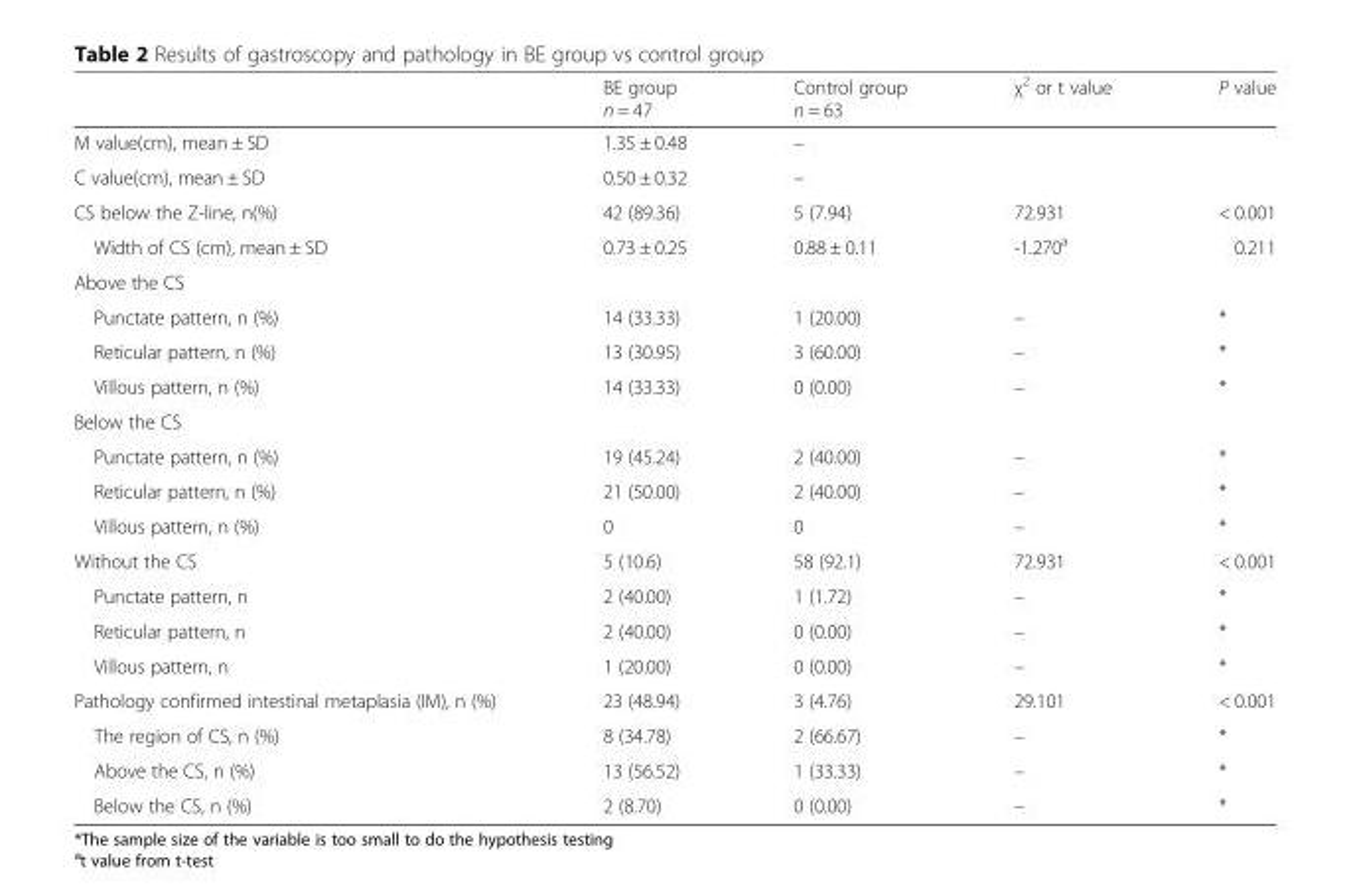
<table><thead><tr><td></td><td>BE group n = 47</td><td>Control group n = 63</td><td>χ<sup>2</sup> or t value</td><td>P value</td></tr></thead><tbody><tr><td>M value(cm), mean ± SD</td><td>1.35 ± 0.48</td><td>–</td><td></td><td></td></tr><tr><td>C value(cm), mean ± SD</td><td>0.50 ± 0.32</td><td>–</td><td></td><td></td></tr><tr><td>CS below the Z-line, n(%)</td><td>42 (89.36)</td><td>5 (7.94)</td><td>72.931</td><td>&lt; 0.001</td></tr><tr><td>Width of CS (cm), mean ± SD</td><td>0.73 ± 0.25</td><td>0.88 ± 0.11</td><td>-1.270<sup>a</sup></td><td>0.211</td></tr><tr><td colspan="5">Above the CS</td></tr><tr><td>Punctate pattern, n (%)</td><td>14 (33.33)</td><td>1 (20.00)</td><td>–</td><td>*</td></tr><tr><td>Reticular pattern, n (%)</td><td>13 (30.95)</td><td>3 (60.00)</td><td>–</td><td>*</td></tr><tr><td>Villous pattern, n (%)</td><td>14 (33.33)</td><td>0 (0.00)</td><td>–</td><td>*</td></tr><tr><td colspan="5">Below the CS</td></tr><tr><td>Punctate pattern, n (%)</td><td>19 (45.24)</td><td>2 (40.00)</td><td>–</td><td>*</td></tr><tr><td>Reticular pattern, n (%)</td><td>21 (50.00)</td><td>2 (40.00)</td><td>–</td><td>*</td></tr><tr><td>Villous pattern, n (%)</td><td>0</td><td>0</td><td>–</td><td>*</td></tr><tr><td>Without the CS</td><td>5 (10.6)</td><td>58 (92.1)</td><td>72.931</td><td>&lt; 0.001</td></tr><tr><td>Punctate pattern, n</td><td>2 (40.00)</td><td>1 (1.72)</td><td>–</td><td>*</td></tr><tr><td>Reticular pattern, n</td><td>2 (40.00)</td><td>0 (0.00)</td><td>–</td><td>*</td></tr><tr><td>Villous pattern, n</td><td>1 (20.00)</td><td>0 (0.00)</td><td>–</td><td>*</td></tr><tr><td>Pathology confirmed intestinal metaplasia (IM), n (%)</td><td>23 (48.94)</td><td>3 (4.76)</td><td>29.101</td><td>&lt; 0.001</td></tr><tr><td>The region of CS, n (%)</td><td>8 (34.78)</td><td>2 (66.67)</td><td>–</td><td>*</td></tr><tr><td>Above the CS, n (%)</td><td>13 (56.52)</td><td>1 (33.33)</td><td>–</td><td>*</td></tr><tr><td>Below the CS, n (%)</td><td>2 (8.70)</td><td>0 (0.00)</td><td>–</td><td>*</td></tr></tbody></table>